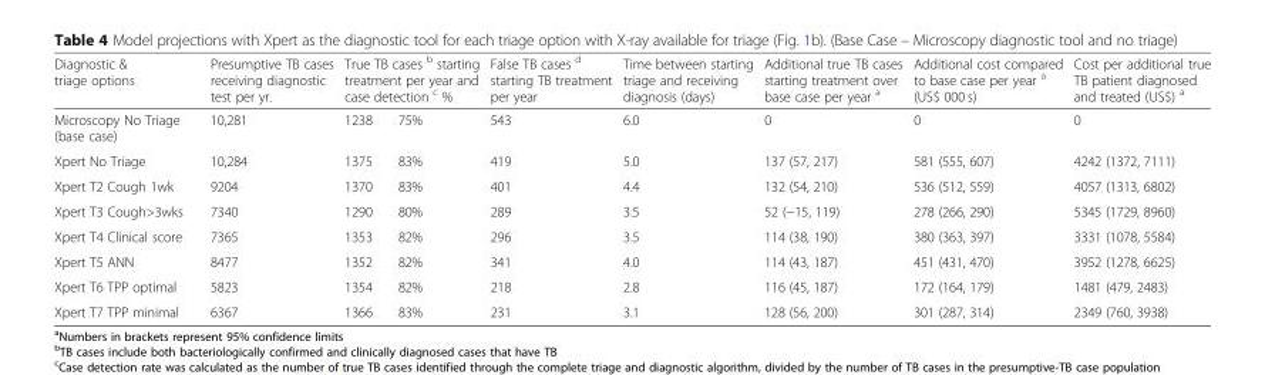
<table><thead><tr><td>Diagnostic &amp; triage options</td><td>Presumptive TB cases receiving diagnostic test per yr.</td><td>True TB cases <sup>b</sup> starting treatment per year and case detection <sup>c</sup> %</td><td>False TB cases <sup>d</sup> starting TB treatment per year</td><td>Time between starting triage and receiving diagnosis (days)</td><td>Additional true TB cases starting treatment over base case per year <sup>a</sup></td><td>Additional cost compared to base case per year <sup>a</sup> (US$ 000 s)</td><td>Cost per additional true TB patient diagnosed and treated (US$) <sup>a</sup></td></tr></thead><tbody><tr><td>Microscopy No Triage (base case)</td><td>10,281</td><td>1238 75%</td><td>543</td><td>6.0</td><td>0</td><td>0</td><td>0</td></tr><tr><td>Xpert No Triage</td><td>10,284</td><td>1375 83%</td><td>419</td><td>5.0</td><td>137 (57, 217)</td><td>581 (555, 607)</td><td>4242 (1372, 7111)</td></tr><tr><td>Xpert T2 Cough 1wk</td><td>9204</td><td>1370 83%</td><td>401</td><td>4.4</td><td>132 (54, 210)</td><td>536 (512, 559)</td><td>4057 (1313, 6802)</td></tr><tr><td>Xpert T3 Cough&gt;3wks</td><td>7340</td><td>1290 80%</td><td>289</td><td>3.5</td><td>52 (−15, 119)</td><td>278 (266, 290)</td><td>5345 (1729, 8960)</td></tr><tr><td>Xpert T4 Clinical score</td><td>7365</td><td>1353 82%</td><td>296</td><td>3.5</td><td>114 (38, 190)</td><td>380 (363, 397)</td><td>3331 (1078, 5584)</td></tr><tr><td>Xpert T5 ANN</td><td>8477</td><td>1352 82%</td><td>341</td><td>4.0</td><td>114 (43, 187)</td><td>451 (431, 470)</td><td>3952 (1278, 6625)</td></tr><tr><td>Xpert T6 TPP optimal</td><td>5823</td><td>1354 82%</td><td>218</td><td>2.8</td><td>116 (45, 187)</td><td>172 (164, 179)</td><td>1481 (479, 2483)</td></tr><tr><td>Xpert T7 TPP minimal</td><td>6367</td><td>1366 83%</td><td>231</td><td>3.1</td><td>128 (56, 200)</td><td>301 (287, 314)</td><td>2349 (760, 3938)</td></tr></tbody></table>